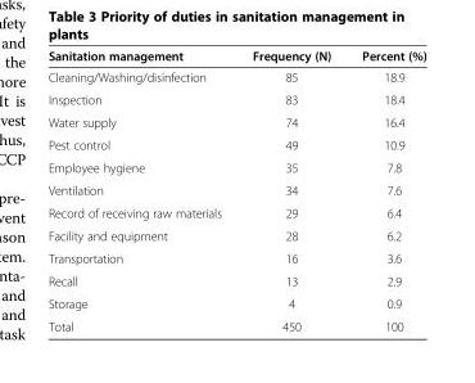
<table><thead><tr><td>Sanitation management</td><td>Frequency (N)</td><td>Percent (%)</td></tr></thead><tbody><tr><td>Cleaning/Washing/disinfection</td><td>85</td><td>18.9</td></tr><tr><td>Inspection</td><td>83</td><td>18.4</td></tr><tr><td>Water supply</td><td>74</td><td>16.4</td></tr><tr><td>Pest control</td><td>49</td><td>10.9</td></tr><tr><td>Employee hygiene</td><td>35</td><td>7.8</td></tr><tr><td>Ventilation</td><td>34</td><td>7.6</td></tr><tr><td>Record of receiving raw materials</td><td>29</td><td>6.4</td></tr><tr><td>Facility and equipment</td><td>28</td><td>6.2</td></tr><tr><td>Transportation</td><td>16</td><td>3.6</td></tr><tr><td>Recall</td><td>13</td><td>2.9</td></tr><tr><td>Storage</td><td>4</td><td>0.9</td></tr><tr><td>Total</td><td>450</td><td>100</td></tr></tbody></table>